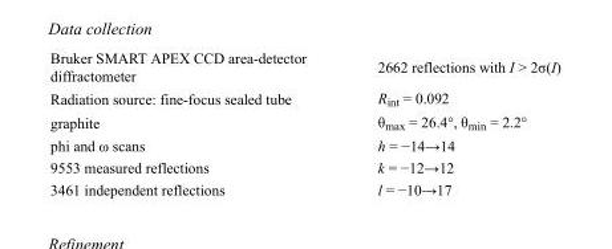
<table><tbody><tr><td>Bruker SMART APEX CCD area-detector diffractometer</td><td>2662 reflections with I &gt; 2σ(I)</td></tr><tr><td>Radiation source: fine-focus sealed tube</td><td>R<sub>int</sub> = 0.092</td></tr><tr><td>graphite</td><td>θ<sub>max</sub> = 26.4°, θ<sub>min</sub> = 2.2°</td></tr><tr><td>phi and ω scans</td><td>h = −14→14</td></tr><tr><td>9553 measured reflections</td><td>k = −12→12</td></tr><tr><td>3461 independent reflections</td><td>l = −10→17</td></tr></tbody></table>